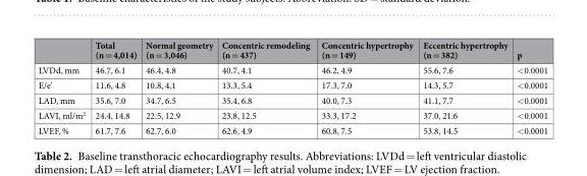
<table><thead><tr><td></td><td>Total (n = 4,014)</td><td>Normal geometry (n = 3,046)</td><td>Concentric remodeling (n = 437)</td><td>Concentric hypertrophy (n = 149)</td><td>Eccentric hypertrophy (n = 382)</td><td>p</td></tr></thead><tbody><tr><td>LVDd, mm</td><td>46.7, 6.1</td><td>46.4, 4.8</td><td>40.7, 4.1</td><td>46.2, 4.9</td><td>55.6, 7.6</td><td>&lt;0.0001</td></tr><tr><td>E/e’</td><td>11.6, 4.8</td><td>10.8, 4.1</td><td>13.3, 5.4</td><td>17.3, 7.0</td><td>14.3, 5.7</td><td>&lt;0.0001</td></tr><tr><td>LAD, mm</td><td>35.6, 7.0</td><td>34.7, 6.5</td><td>35.4, 6.8</td><td>40.0, 7.3</td><td>41.1, 7.7</td><td>&lt;0.0001</td></tr><tr><td>LAVI, ml/m<sup>2</sup></td><td>24.4, 14.8</td><td>22.5, 12.9</td><td>23.8, 12.5</td><td>33.3, 17.2</td><td>37.0, 21.6</td><td>&lt;0.0001</td></tr><tr><td>LVEF, %</td><td>61.7, 7.6</td><td>62.7, 6.0</td><td>62.6, 4.9</td><td>60.8, 7.5</td><td>53.8, 14.5</td><td>&lt;0.0001</td></tr></tbody></table>